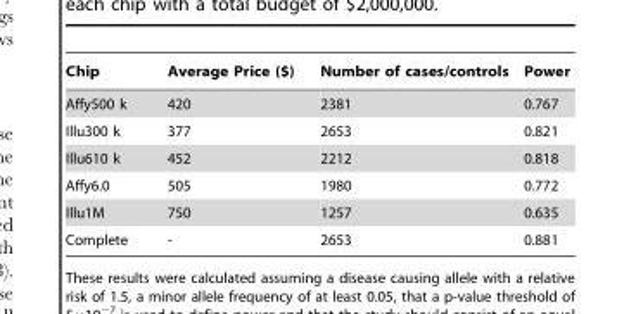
<table><thead><tr><td>Chip</td><td>Average Price ($)</td><td>Number of cases/controls</td><td>Power</td></tr></thead><tbody><tr><td>Affy500 k</td><td>420</td><td>2381</td><td>0.767</td></tr><tr><td>Illu300 k</td><td>377</td><td>2653</td><td>0.821</td></tr><tr><td>Illu610 k</td><td>452</td><td>2212</td><td>0.818</td></tr><tr><td>Affy6.0</td><td>505</td><td>1980</td><td>0.772</td></tr><tr><td>Illu1M</td><td>750</td><td>1257</td><td>0.635</td></tr><tr><td>Complete</td><td>-</td><td>2653</td><td>0.881</td></tr></tbody></table>